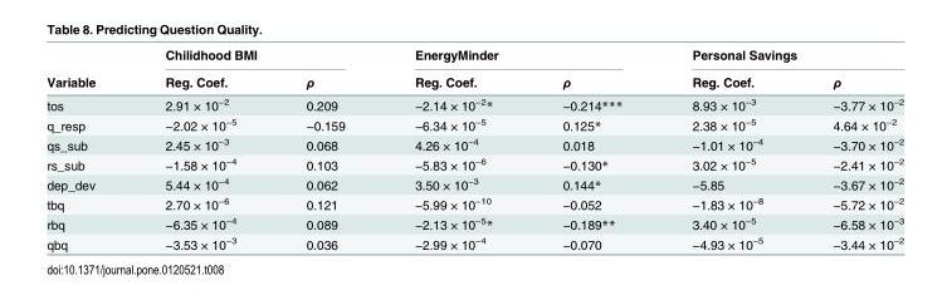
<table><thead><tr><td rowspan="2">Variable</td><td colspan="2">Chilidhood BMI</td><td colspan="2">EnergyMinder</td><td colspan="2">Personal Savings</td></tr><tr><td>Reg. Coef.</td><td>ρ</td><td>Reg. Coef.</td><td>ρ</td><td>Reg. Coef.</td><td>ρ</td></tr></thead><tbody><tr><td>tos</td><td>2.91 × 10<sup>−2</sup></td><td>0.209</td><td>−2.14 × 10<sup>−2</sup>*</td><td>−0.214***</td><td>8.93 × 10<sup>−3</sup></td><td>−3.77 × 10<sup>−2</sup></td></tr><tr><td>q_resp</td><td>−2.02 × 10<sup>−5</sup></td><td>−0.159</td><td>−6.34 × 10<sup>−5</sup></td><td>0.125*</td><td>2.38 × 10<sup>−5</sup></td><td>4.64 × 10<sup>−2</sup></td></tr><tr><td>qs_sub</td><td>2.45 × 10<sup>−3</sup></td><td>0.068</td><td>4.26 × 10<sup>−4</sup></td><td>0.018</td><td>−1.01 × 10<sup>−4</sup></td><td>−3.70 × 10<sup>−2</sup></td></tr><tr><td>rs_sub</td><td>−1.58 × 10<sup>−4</sup></td><td>0.103</td><td>−5.83 × 10<sup>−6</sup></td><td>−0.130*</td><td>3.02 × 10<sup>−5</sup></td><td>−2.41 × 10<sup>−2</sup></td></tr><tr><td>dep_dev</td><td>5.44 × 10<sup>−4</sup></td><td>0.062</td><td>3.50 × 10<sup>−3</sup></td><td>0.144*</td><td>−5.85</td><td>−3.67 × 10<sup>−2</sup></td></tr><tr><td>tbq</td><td>2.70 × 10<sup>−6</sup></td><td>0.121</td><td>−5.99 × 10<sup>−10</sup></td><td>−0.052</td><td>−1.83 × 10<sup>−8</sup></td><td>−5.72 × 10<sup>−2</sup></td></tr><tr><td>rbq</td><td>−6.35 × 10<sup>−4</sup></td><td>0.089</td><td>−2.13 × 10<sup>−5</sup>*</td><td>−0.189**</td><td>3.40 × 10<sup>−5</sup></td><td>−6.58 × 10<sup>−3</sup></td></tr><tr><td>qbq</td><td>−3.53 × 10<sup>−3</sup></td><td>0.036</td><td>−2.99 × 10<sup>−4</sup></td><td>−0.070</td><td>−4.93 × 10<sup>−5</sup></td><td>−3.44 × 10<sup>−2</sup></td></tr></tbody></table>